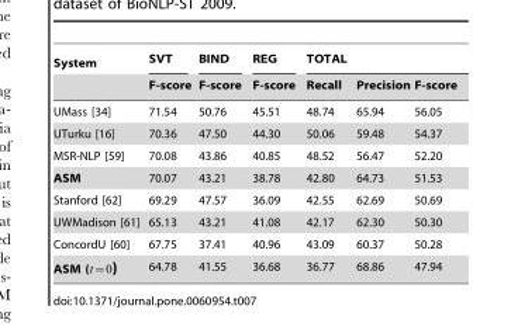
<table><thead><tr><td rowspan="2">System</td><td rowspan="2">SVT F-score</td><td rowspan="2">BIND F-score</td><td rowspan="2">REG F-score</td><td colspan="3">TOTAL</td></tr><tr><td>Recall</td><td>Precision</td><td>F-score</td></tr></thead><tbody><tr><td>UMass [34]</td><td>71.54</td><td>50.76</td><td>45.51</td><td>48.74</td><td>65.94</td><td>56.05</td></tr><tr><td>UTurku [16]</td><td>70.36</td><td>47.50</td><td>44.30</td><td>50.06</td><td>59.48</td><td>54.37</td></tr><tr><td>MSR-NLP [59]</td><td>70.08</td><td>43.86</td><td>40.85</td><td>48.52</td><td>56.47</td><td>52.20</td></tr><tr><td>ASM</td><td>70.07</td><td>43.21</td><td>38.78</td><td>42.80</td><td>64.73</td><td>51.53</td></tr><tr><td>Stanford [62]</td><td>69.29</td><td>47.57</td><td>36.09</td><td>42.55</td><td>62.69</td><td>50.69</td></tr><tr><td>UWMadison [61]</td><td>65.13</td><td>43.21</td><td>41.08</td><td>42.17</td><td>62.30</td><td>50.30</td></tr><tr><td>ConcordU [60]</td><td>67.75</td><td>37.41</td><td>40.96</td><td>43.09</td><td>60.37</td><td>50.28</td></tr><tr><td>ASM (t~0)</td><td>64.78</td><td>41.55</td><td>36.68</td><td>36.77</td><td>68.86</td><td>47.94</td></tr></tbody></table>